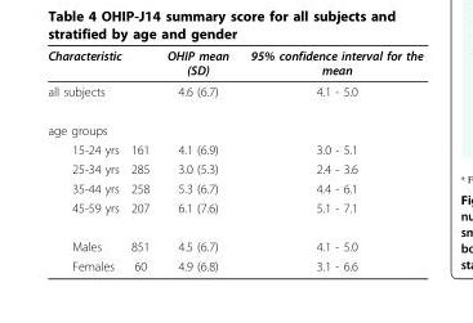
<table><thead><tr><td>Characteristic</td><td></td><td>OHIP mean (SD)</td><td>95% confidence interval for the mean</td></tr></thead><tbody><tr><td>all subjects</td><td></td><td>4.6 (6.7)</td><td>4.1 - 5.0</td></tr><tr><td colspan="4">age groups</td></tr><tr><td>15-24 yrs</td><td>161</td><td>4.1 (6.9)</td><td>3.0 - 5.1</td></tr><tr><td>25-34 yrs</td><td>285</td><td>3.0 (5.3)</td><td>2.4 - 3.6</td></tr><tr><td>35-44 yrs</td><td>258</td><td>5.3 (6.7)</td><td>4.4 - 6.1</td></tr><tr><td>45-59 yrs</td><td>207</td><td>6.1 (7.6)</td><td>5.1 - 7.1</td></tr><tr><td>Males</td><td>851</td><td>4.5 (6.7)</td><td>4.1 - 5.0</td></tr><tr><td>Females</td><td>60</td><td>4.9 (6.8)</td><td>3.1 - 6.6</td></tr></tbody></table>